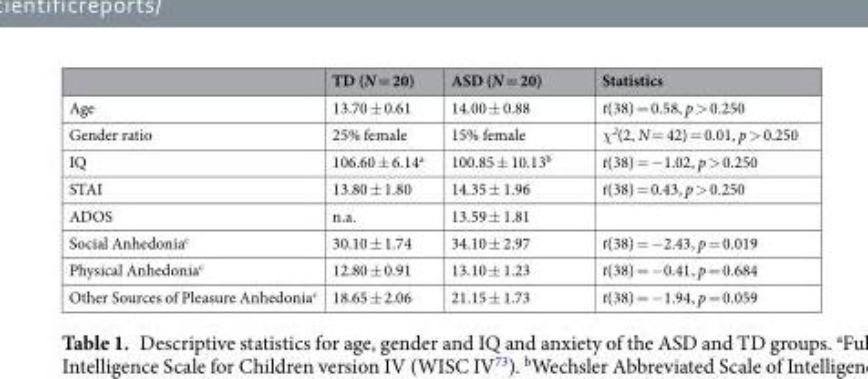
<table><thead><tr><td></td><td>TD (N = 20)</td><td>ASD (N = 20)</td><td>Statistics</td></tr></thead><tbody><tr><td>Age</td><td>13.70 ± 0.61</td><td>14.00 ± 0.88</td><td>t(38) = 0.58, p &gt; 0.250</td></tr><tr><td>Gender ratio</td><td>25% female</td><td>15% female</td><td>χ<sup>2</sup>(2, N = 42) = 0.01, p &gt; 0.250</td></tr><tr><td>IQ</td><td>106.60 ± 6.14<sup>a</sup></td><td>100.85 ± 10.13<sup>b</sup></td><td>t(38) = −1.02, p &gt; 0.250</td></tr><tr><td>STAI</td><td>13.80 ± 1.80</td><td>14.35 ± 1.96</td><td>t(38) = 0.43, p &gt; 0.250</td></tr><tr><td>ADOS</td><td>n.a.</td><td>13.59 ± 1.81</td><td></td></tr><tr><td>Social Anhedonia<sup>c</sup></td><td>30.10 ± 1.74</td><td>34.10 ± 2.97</td><td>t(38) = −2.43, p = 0.019</td></tr><tr><td>Physical Anhedonia<sup>c</sup></td><td>12.80 ± 0.91</td><td>13.10 ± 1.23</td><td>t(38) = −0.41, p = 0.684</td></tr><tr><td>Other Sources of Pleasure Anhedonia<sup>c</sup></td><td>18.65 ± 2.06</td><td>21.15 ± 1.73</td><td>t(38) = −1.94, p = 0.059</td></tr></tbody></table>